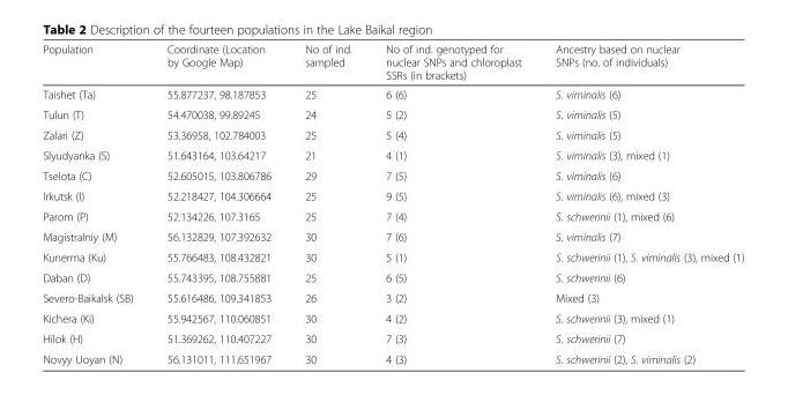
<table><thead><tr><td>Population</td><td>Coordinate (Location by Google Map)</td><td>No of ind. sampled</td><td>No of ind. genotyped for nuclear SNPs and chloroplast SSRs (in brackets)</td><td>Ancestry based on nuclear SNPs (no. of individuals)</td></tr></thead><tbody><tr><td>Taishet (Ta)</td><td>55.877237, 98.187853</td><td>25</td><td>6 (6)</td><td>S. viminalis (6)</td></tr><tr><td>Tulun (T)</td><td>54.470038, 99.89245</td><td>24</td><td>5 (2)</td><td>S. viminalis (5)</td></tr><tr><td>Zalari (Z)</td><td>53.36958, 102.784003</td><td>25</td><td>5 (4)</td><td>S. viminalis (5)</td></tr><tr><td>Slyudyanka (S)</td><td>51.643164, 103.64217</td><td>21</td><td>4 (1)</td><td>S. viminalis (3), mixed (1)</td></tr><tr><td>Tselota (C)</td><td>52.605015, 103.806786</td><td>29</td><td>7 (5)</td><td>S. viminalis (6)</td></tr><tr><td>Irkutsk (I)</td><td>52.218427, 104.306664</td><td>25</td><td>9 (5)</td><td>S. viminalis (6), mixed (3)</td></tr><tr><td>Parom (P)</td><td>52.134226, 107.3165</td><td>25</td><td>7 (4)</td><td>S. schwerinii (1), mixed (6)</td></tr><tr><td>Magistralniy (M)</td><td>56.132829, 107.392632</td><td>30</td><td>7 (6)</td><td>S. viminalis (7)</td></tr><tr><td>Kunerma (Ku)</td><td>55.766483, 108.432821</td><td>30</td><td>5 (1)</td><td>S. schwerinii (1), S. viminalis (3), mixed (1)</td></tr><tr><td>Daban (D)</td><td>55.743395, 108.755881</td><td>25</td><td>6 (5)</td><td>S. schwerinii (6)</td></tr><tr><td>Severo-Baikalsk (SB)</td><td>55.616486, 109.341853</td><td>26</td><td>3 (2)</td><td>Mixed (3)</td></tr><tr><td>Kichera (Ki)</td><td>55.942567, 110.060851</td><td>30</td><td>4 (2)</td><td>S. schwerinii (3), mixed (1)</td></tr><tr><td>Hilok (H)</td><td>51.369262, 110.407227</td><td>30</td><td>7 (3)</td><td>S. schwerinii (7)</td></tr><tr><td>Novyy Uoyan (N)</td><td>56.131011, 111.651967</td><td>30</td><td>4 (3)</td><td>S. schwerinii (2), S. viminalis (2)</td></tr></tbody></table>